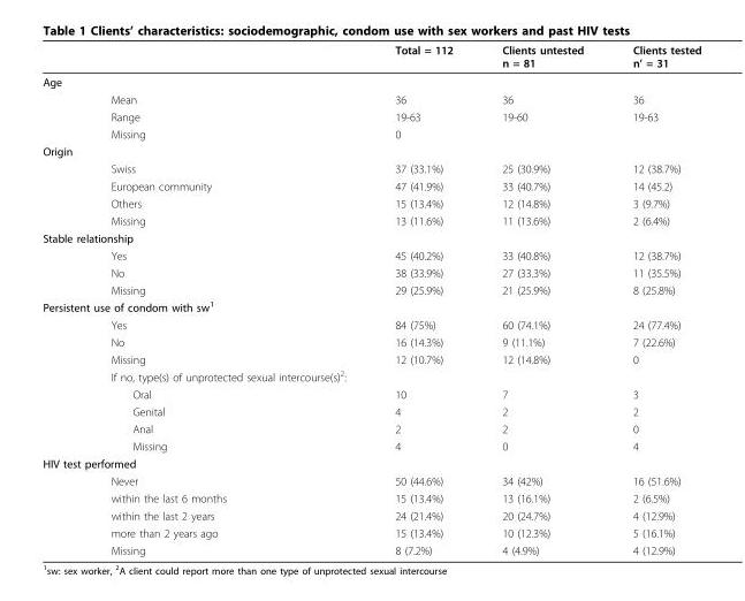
<table><thead><tr><td></td><td></td><td>Total = 112</td><td>Clients untested n = 81</td><td>Clients tested n’ = 31</td></tr></thead><tbody><tr><td colspan="5">Age</td></tr><tr><td></td><td>Mean</td><td>36</td><td>36</td><td>36</td></tr><tr><td></td><td>Range</td><td>19-63</td><td>19-60</td><td>19-63</td></tr><tr><td></td><td>Missing</td><td>0</td><td></td><td></td></tr><tr><td colspan="5">Origin</td></tr><tr><td></td><td>Swiss</td><td>37 (33.1%)</td><td>25 (30.9%)</td><td>12 (38.7%)</td></tr><tr><td></td><td>European community</td><td>47 (41.9%)</td><td>33 (40.7%)</td><td>14 (45.2)</td></tr><tr><td></td><td>Others</td><td>15 (13.4%)</td><td>12 (14.8%)</td><td>3 (9.7%)</td></tr><tr><td></td><td>Missing</td><td>13 (11.6%)</td><td>11 (13.6%)</td><td>2 (6.4%)</td></tr><tr><td colspan="5">Stable relationship</td></tr><tr><td></td><td>Yes</td><td>45 (40.2%)</td><td>33 (40.8%)</td><td>12 (38.7%)</td></tr><tr><td></td><td>No</td><td>38 (33.9%)</td><td>27 (33.3%)</td><td>11 (35.5%)</td></tr><tr><td></td><td>Missing</td><td>29 (25.9%)</td><td>21 (25.9%)</td><td>8 (25.8%)</td></tr><tr><td colspan="5">Persistent use of condom with sw<sup>1</sup></td></tr><tr><td></td><td>Yes</td><td>84 (75%)</td><td>60 (74.1%)</td><td>24 (77.4%)</td></tr><tr><td></td><td>No</td><td>16 (14.3%)</td><td>9 (11.1%)</td><td>7 (22.6%)</td></tr><tr><td></td><td>Missing</td><td>12 (10.7%)</td><td>12 (14.8%)</td><td>0</td></tr><tr><td></td><td>If no, type(s) of unprotected sexual intercourse(s)<sup>2</sup>:</td><td></td><td></td><td></td></tr><tr><td></td><td>Oral</td><td>10</td><td>7</td><td>3</td></tr><tr><td></td><td>Genital</td><td>4</td><td>2</td><td>2</td></tr><tr><td></td><td>Anal</td><td>2</td><td>2</td><td>0</td></tr><tr><td></td><td>Missing</td><td>4</td><td>0</td><td>4</td></tr><tr><td colspan="5">HIV test performed</td></tr><tr><td></td><td>Never</td><td>50 (44.6%)</td><td>34 (42%)</td><td>16 (51.6%)</td></tr><tr><td></td><td>within the last 6 months</td><td>15 (13.4%)</td><td>13 (16.1%)</td><td>2 (6.5%)</td></tr><tr><td></td><td>within the last 2 years</td><td>24 (21.4%)</td><td>20 (24.7%)</td><td>4 (12.9%)</td></tr><tr><td></td><td>more than 2 years ago</td><td>15 (13.4%)</td><td>10 (12.3%)</td><td>5 (16.1%)</td></tr><tr><td></td><td>Missing</td><td>8 (7.2%)</td><td>4 (4.9%)</td><td>4 (12.9%)</td></tr></tbody></table>